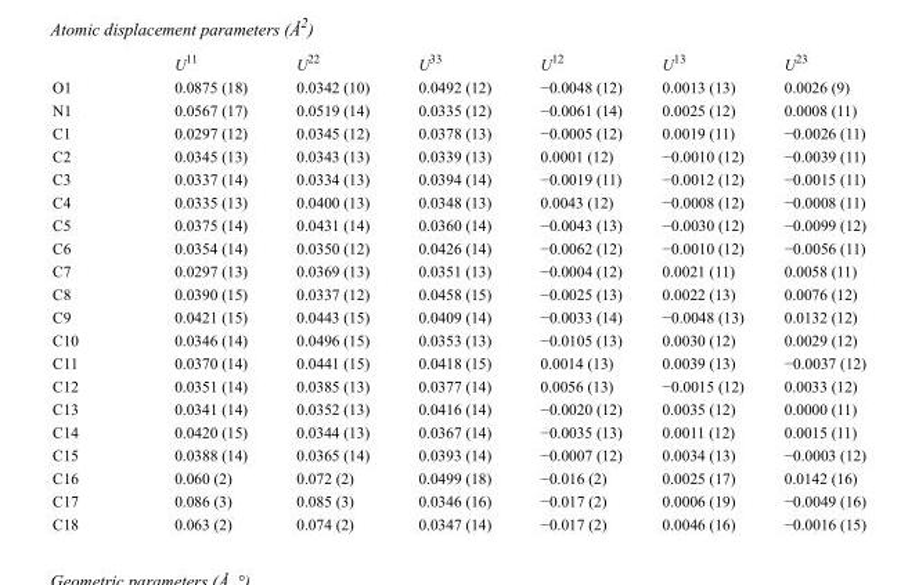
<table><thead><tr><td></td><td>U<sup>11</sup></td><td>U<sup>22</sup></td><td>U<sup>33</sup></td><td>U<sup>12</sup></td><td>U<sup>13</sup></td><td>U<sup>23</sup></td></tr></thead><tbody><tr><td>O1</td><td>0.0875 (18)</td><td>0.0342 (10)</td><td>0.0492 (12)</td><td>−0.0048 (12)</td><td>0.0013 (13)</td><td>0.0026 (9)</td></tr><tr><td>N1</td><td>0.0567 (17)</td><td>0.0519 (14)</td><td>0.0335 (12)</td><td>−0.0061 (14)</td><td>0.0025 (12)</td><td>0.0008 (11)</td></tr><tr><td>C1</td><td>0.0297 (12)</td><td>0.0345 (12)</td><td>0.0378 (13)</td><td>−0.0005 (12)</td><td>0.0019 (11)</td><td>−0.0026 (11)</td></tr><tr><td>C2</td><td>0.0345 (13)</td><td>0.0343 (13)</td><td>0.0339 (13)</td><td>0.0001 (12)</td><td>−0.0010 (12)</td><td>−0.0039 (11)</td></tr><tr><td>C3</td><td>0.0337 (14)</td><td>0.0334 (13)</td><td>0.0394 (14)</td><td>−0.0019 (11)</td><td>−0.0012 (12)</td><td>−0.0015 (11)</td></tr><tr><td>C4</td><td>0.0335 (13)</td><td>0.0400 (13)</td><td>0.0348 (13)</td><td>0.0043 (12)</td><td>−0.0008 (12)</td><td>−0.0008 (11)</td></tr><tr><td>C5</td><td>0.0375 (14)</td><td>0.0431 (14)</td><td>0.0360 (14)</td><td>−0.0043 (13)</td><td>−0.0030 (12)</td><td>−0.0099 (12)</td></tr><tr><td>C6</td><td>0.0354 (14)</td><td>0.0350 (12)</td><td>0.0426 (14)</td><td>−0.0062 (12)</td><td>−0.0010 (12)</td><td>−0.0056 (11)</td></tr><tr><td>C7</td><td>0.0297 (13)</td><td>0.0369 (13)</td><td>0.0351 (13)</td><td>−0.0004 (12)</td><td>0.0021 (11)</td><td>0.0058 (11)</td></tr><tr><td>C8</td><td>0.0390 (15)</td><td>0.0337 (12)</td><td>0.0458 (15)</td><td>−0.0025 (13)</td><td>0.0022 (13)</td><td>0.0076 (12)</td></tr><tr><td>C9</td><td>0.0421 (15)</td><td>0.0443 (15)</td><td>0.0409 (14)</td><td>−0.0033 (14)</td><td>−0.0048 (13)</td><td>0.0132 (12)</td></tr><tr><td>C10</td><td>0.0346 (14)</td><td>0.0496 (15)</td><td>0.0353 (13)</td><td>−0.0105 (13)</td><td>0.0030 (12)</td><td>0.0029 (12)</td></tr><tr><td>C11</td><td>0.0370 (14)</td><td>0.0441 (15)</td><td>0.0418 (15)</td><td>0.0014 (13)</td><td>0.0039 (13)</td><td>−0.0037 (12)</td></tr><tr><td>C12</td><td>0.0351 (14)</td><td>0.0385 (13)</td><td>0.0377 (14)</td><td>0.0056 (13)</td><td>−0.0015 (12)</td><td>0.0033 (12)</td></tr><tr><td>C13</td><td>0.0341 (14)</td><td>0.0352 (13)</td><td>0.0416 (14)</td><td>−0.0020 (12)</td><td>0.0035 (12)</td><td>0.0000 (11)</td></tr><tr><td>C14</td><td>0.0420 (15)</td><td>0.0344 (13)</td><td>0.0367 (14)</td><td>−0.0035 (13)</td><td>0.0011 (12)</td><td>0.0015 (11)</td></tr><tr><td>C15</td><td>0.0388 (14)</td><td>0.0365 (14)</td><td>0.0393 (14)</td><td>−0.0007 (12)</td><td>0.0034 (13)</td><td>−0.0003 (12)</td></tr><tr><td>C16</td><td>0.060 (2)</td><td>0.072 (2)</td><td>0.0499 (18)</td><td>−0.016 (2)</td><td>0.0025 (17)</td><td>0.0142 (16)</td></tr><tr><td>C17</td><td>0.086 (3)</td><td>0.085 (3)</td><td>0.0346 (16)</td><td>−0.017 (2)</td><td>0.0006 (19)</td><td>−0.0049 (16)</td></tr><tr><td>C18</td><td>0.063 (2)</td><td>0.074 (2)</td><td>0.0347 (14)</td><td>−0.017 (2)</td><td>0.0046 (16)</td><td>−0.0016 (15)</td></tr></tbody></table>